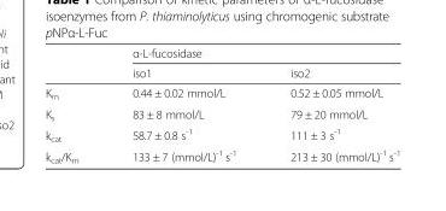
<table><thead><tr><td rowspan="2"></td><td colspan="2">α-L-fucosidase</td></tr><tr><td>iso1</td><td>iso2</td></tr></thead><tbody><tr><td>K<sub>m</sub></td><td>0.44 ± 0.02 mmol/L</td><td>0.52 ± 0.05 mmol/L</td></tr><tr><td>K<sub>s</sub></td><td>83 ± 8 mmol/L</td><td>79 ± 20 mmol/L</td></tr><tr><td>k<sub>cat</sub></td><td>58.7 ± 0.8 s<sup>-1</sup></td><td>111 ± 3 s<sup>-1</sup></td></tr><tr><td>k<sub>cat</sub>/K<sub>m</sub></td><td>133 ± 7 (mmol/L)<sup>-1</sup> s<sup>-1</sup></td><td>213 ± 30 (mmol/L)<sup>-1</sup> s<sup>-1</sup></td></tr></tbody></table>